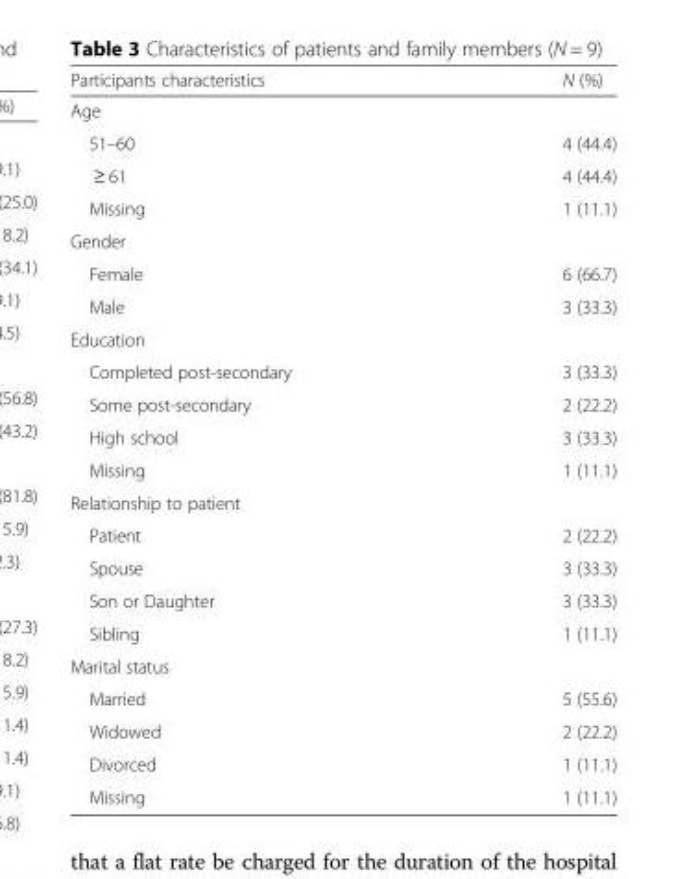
<table><thead><tr><td>Participants characteristics</td><td>N (%)</td></tr></thead><tbody><tr><td colspan="2">Age</td></tr><tr><td>51–60</td><td>4 (44.4)</td></tr><tr><td>≥ 61</td><td>4 (44.4)</td></tr><tr><td>Missing</td><td>1 (11.1)</td></tr><tr><td colspan="2">Gender</td></tr><tr><td>Female</td><td>6 (66.7)</td></tr><tr><td>Male</td><td>3 (33.3)</td></tr><tr><td colspan="2">Education</td></tr><tr><td>Completed post-secondary</td><td>3 (33.3)</td></tr><tr><td>Some post-secondary</td><td>2 (22.2)</td></tr><tr><td>High school</td><td>3 (33.3)</td></tr><tr><td>Missing</td><td>1 (11.1)</td></tr><tr><td colspan="2">Relationship to patient</td></tr><tr><td>Patient</td><td>2 (22.2)</td></tr><tr><td>Spouse</td><td>3 (33.3)</td></tr><tr><td>Son or Daughter</td><td>3 (33.3)</td></tr><tr><td>Sibling</td><td>1 (11.1)</td></tr><tr><td colspan="2">Marital status</td></tr><tr><td>Married</td><td>5 (55.6)</td></tr><tr><td>Widowed</td><td>2 (22.2)</td></tr><tr><td>Divorced</td><td>1 (11.1)</td></tr><tr><td>Missing</td><td>1 (11.1)</td></tr></tbody></table>